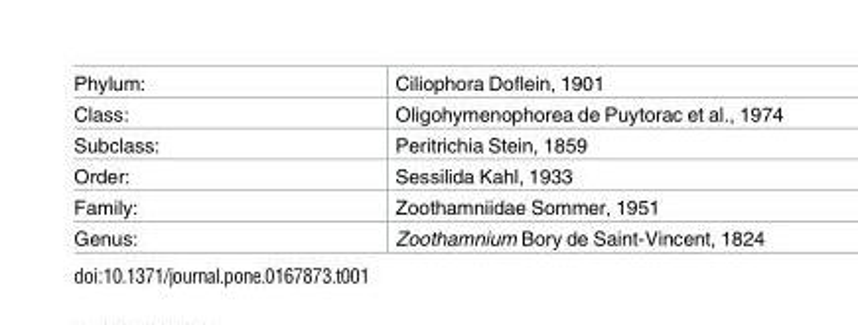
<table><tbody><tr><td>Phylum:</td><td>Ciliophora Doflein, 1901</td></tr><tr><td>Class:</td><td>Oligohymenophorea de Puytorac et al., 1974</td></tr><tr><td>Subclass:</td><td>Peritrichia Stein, 1859</td></tr><tr><td>Order:</td><td>Sessilida Kahl, 1933</td></tr><tr><td>Family:</td><td>Zoothamniidae Sommer, 1951</td></tr><tr><td>Genus:</td><td>Zoothamnium Bory de Saint-Vincent, 1824</td></tr></tbody></table>